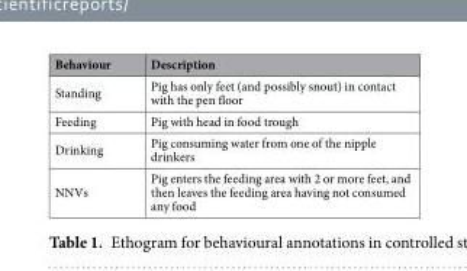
<table><thead><tr><td>Behaviour</td><td>Description</td></tr></thead><tbody><tr><td>Standing</td><td>Pig has only feet (and possibly snout) in contact with the pen floor</td></tr><tr><td>Feeding</td><td>Pig with head in food trough</td></tr><tr><td>Drinking</td><td>Pig consuming water from one of the nipple drinkers</td></tr><tr><td>NNVs</td><td>Pig enters the feeding area with 2 or more feet, and then leaves the feeding area having not consumed any food</td></tr></tbody></table>